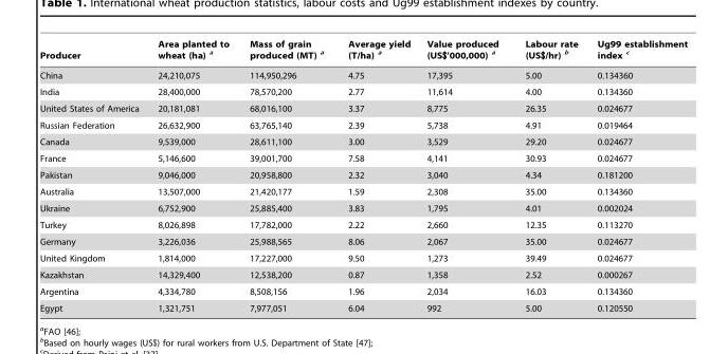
<table><thead><tr><td>Producer</td><td>Area planted to wheat (ha) a</td><td>Mass of grain produced (MT) a</td><td>Average yield (T/ha) a</td><td>Value produced (US$’000,000) a</td><td>Labour rate (US$/hr) b</td><td>Ug99 establishment index c</td></tr></thead><tbody><tr><td>China</td><td>24,210,075</td><td>114,950,296</td><td>4.75</td><td>17,395</td><td>5.00</td><td>0.134360</td></tr><tr><td>India</td><td>28,400,000</td><td>78,570,200</td><td>2.77</td><td>11,614</td><td>4.00</td><td>0.134360</td></tr><tr><td>United States of America</td><td>20,181,081</td><td>68,016,100</td><td>3.37</td><td>8,775</td><td>26.35</td><td>0.024677</td></tr><tr><td>Russian Federation</td><td>26,632,900</td><td>63,765,140</td><td>2.39</td><td>5,738</td><td>4.91</td><td>0.019464</td></tr><tr><td>Canada</td><td>9,539,000</td><td>28,611,100</td><td>3.00</td><td>3,529</td><td>29.20</td><td>0.024677</td></tr><tr><td>France</td><td>5,146,600</td><td>39,001,700</td><td>7.58</td><td>4,141</td><td>30.93</td><td>0.024677</td></tr><tr><td>Pakistan</td><td>9,046,000</td><td>20,958,800</td><td>2.32</td><td>3,040</td><td>4.34</td><td>0.181200</td></tr><tr><td>Australia</td><td>13,507,000</td><td>21,420,177</td><td>1.59</td><td>2,308</td><td>35.00</td><td>0.134360</td></tr><tr><td>Ukraine</td><td>6,752,900</td><td>25,885,400</td><td>3.83</td><td>1,795</td><td>4.01</td><td>0.002024</td></tr><tr><td>Turkey</td><td>8,026,898</td><td>17,782,000</td><td>2.22</td><td>2,660</td><td>12.35</td><td>0.113270</td></tr><tr><td>Germany</td><td>3,226,036</td><td>25,988,565</td><td>8.06</td><td>2,067</td><td>35.00</td><td>0.024677</td></tr><tr><td>United Kingdom</td><td>1,814,000</td><td>17,227,000</td><td>9.50</td><td>1,273</td><td>39.49</td><td>0.024677</td></tr><tr><td>Kazakhstan</td><td>14,329,400</td><td>12,538,200</td><td>0.87</td><td>1,358</td><td>2.52</td><td>0.000267</td></tr><tr><td>Argentina</td><td>4,334,780</td><td>8,508,156</td><td>1.96</td><td>2,034</td><td>16.03</td><td>0.134360</td></tr><tr><td>Egypt</td><td>1,321,751</td><td>7,977,051</td><td>6.04</td><td>992</td><td>5.00</td><td>0.120550</td></tr></tbody></table>